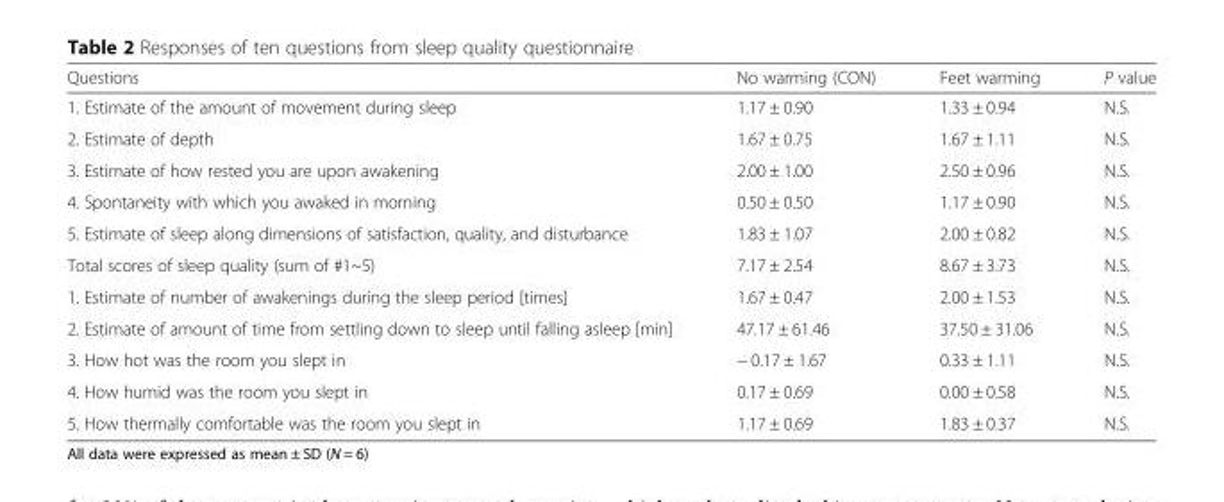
<table><thead><tr><td>Questions</td><td>No warming (CON)</td><td>Feet warming</td><td>P value</td></tr></thead><tbody><tr><td>1. Estimate of the amount of movement during sleep</td><td>1.17 ± 0.90</td><td>1.33 ± 0.94</td><td>N.S.</td></tr><tr><td>2. Estimate of depth</td><td>1.67 ± 0.75</td><td>1.67 ± 1.11</td><td>N.S.</td></tr><tr><td>3. Estimate of how rested you are upon awakening</td><td>2.00 ± 1.00</td><td>2.50 ± 0.96</td><td>N.S.</td></tr><tr><td>4. Spontaneity with which you awaked in morning</td><td>0.50 ± 0.50</td><td>1.17 ± 0.90</td><td>N.S.</td></tr><tr><td>5. Estimate of sleep along dimensions of satisfaction, quality, and disturbance</td><td>1.83 ± 1.07</td><td>2.00 ± 0.82</td><td>N.S.</td></tr><tr><td>Total scores of sleep quality (sum of #1~5)</td><td>7.17 ± 2.54</td><td>8.67 ± 3.73</td><td>N.S.</td></tr><tr><td>1. Estimate of number of awakenings during the sleep period [times]</td><td>1.67 ± 0.47</td><td>2.00 ± 1.53</td><td>N.S.</td></tr><tr><td>2. Estimate of amount of time from settling down to sleep until falling asleep [min]</td><td>47.17 ± 61.46</td><td>37.50 ± 31.06</td><td>N.S.</td></tr><tr><td>3. How hot was the room you slept in</td><td>− 0.17 ± 1.67</td><td>0.33 ± 1.11</td><td>N.S.</td></tr><tr><td>4. How humid was the room you slept in</td><td>0.17 ± 0.69</td><td>0.00 ± 0.58</td><td>N.S.</td></tr><tr><td>5. How thermally comfortable was the room you slept in</td><td>1.17 ± 0.69</td><td>1.83 ± 0.37</td><td>N.S.</td></tr></tbody></table>